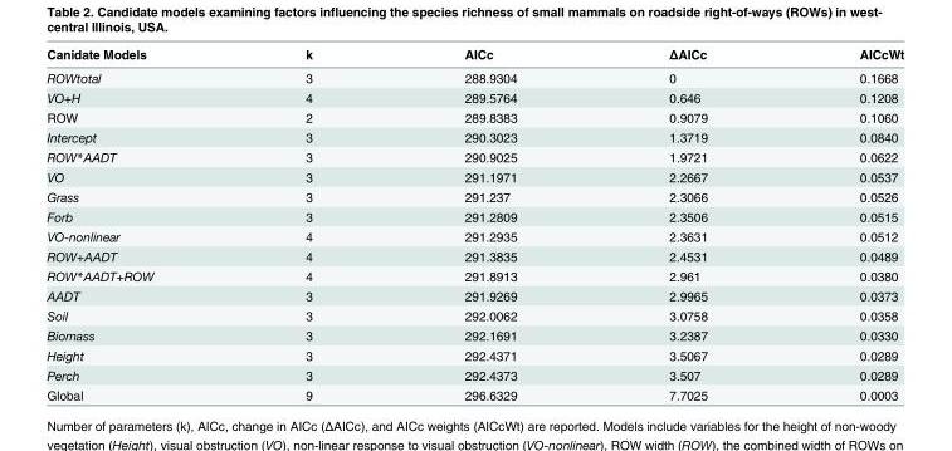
<table><thead><tr><td>Canidate Models</td><td>k</td><td>AICc</td><td>ΔAICc</td><td>AICcWt</td></tr></thead><tbody><tr><td>ROWtotal</td><td>3</td><td>288.9304</td><td>0</td><td>0.1668</td></tr><tr><td>VO+H</td><td>4</td><td>289.5764</td><td>0.646</td><td>0.1208</td></tr><tr><td>ROW</td><td>2</td><td>289.8383</td><td>0.9079</td><td>0.1060</td></tr><tr><td>Intercept</td><td>3</td><td>290.3023</td><td>1.3719</td><td>0.0840</td></tr><tr><td>ROW*AADT</td><td>3</td><td>290.9025</td><td>1.9721</td><td>0.0622</td></tr><tr><td>VO</td><td>3</td><td>291.1971</td><td>2.2667</td><td>0.0537</td></tr><tr><td>Grass</td><td>3</td><td>291.237</td><td>2.3066</td><td>0.0526</td></tr><tr><td>Forb</td><td>3</td><td>291.2809</td><td>2.3506</td><td>0.0515</td></tr><tr><td>VO-nonlinear</td><td>4</td><td>291.2935</td><td>2.3631</td><td>0.0512</td></tr><tr><td>ROW+AADT</td><td>4</td><td>291.3835</td><td>2.4531</td><td>0.0489</td></tr><tr><td>ROW*AADT+ROW</td><td>4</td><td>291.8913</td><td>2.961</td><td>0.0380</td></tr><tr><td>AADT</td><td>3</td><td>291.9269</td><td>2.9965</td><td>0.0373</td></tr><tr><td>Soil</td><td>3</td><td>292.0062</td><td>3.0758</td><td>0.0358</td></tr><tr><td>Biomass</td><td>3</td><td>292.1691</td><td>3.2387</td><td>0.0330</td></tr><tr><td>Height</td><td>3</td><td>292.4371</td><td>3.5067</td><td>0.0289</td></tr><tr><td>Perch</td><td>3</td><td>292.4373</td><td>3.507</td><td>0.0289</td></tr><tr><td>Global</td><td>9</td><td>296.6329</td><td>7.7025</td><td>0.0003</td></tr></tbody></table>